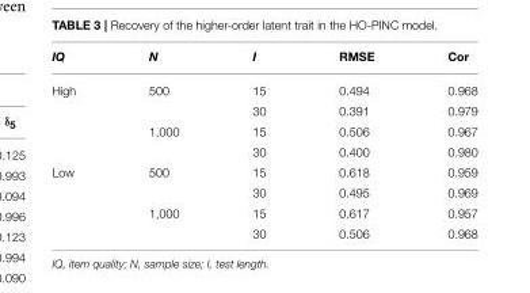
<table><thead><tr><td>IQ</td><td>N</td><td>I</td><td>RMSE</td><td>Cor</td></tr></thead><tbody><tr><td rowspan="4">High</td><td>500</td><td>15</td><td>0.494</td><td>0.968</td></tr><tr><td></td><td>30</td><td>0.391</td><td>0.979</td></tr><tr><td>1,000</td><td>15</td><td>0.506</td><td>0.967</td></tr><tr><td></td><td>30</td><td>0.400</td><td>0.980</td></tr><tr><td rowspan="4">Low</td><td>500</td><td>15</td><td>0.618</td><td>0.959</td></tr><tr><td></td><td>30</td><td>0.495</td><td>0.969</td></tr><tr><td>1,000</td><td>15</td><td>0.617</td><td>0.957</td></tr><tr><td></td><td>30</td><td>0.506</td><td>0.968</td></tr></tbody></table>